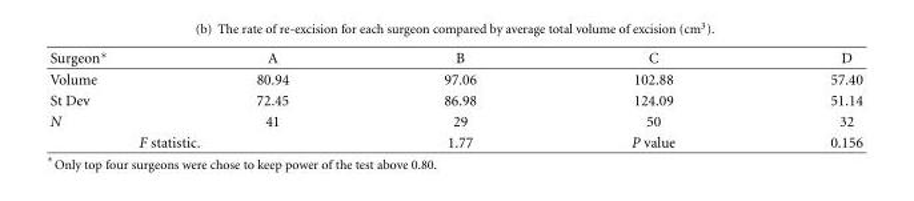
<table><thead><tr><td>Surgeon∗</td><td>A</td><td>B</td><td>C</td><td>D</td></tr></thead><tbody><tr><td>Volume</td><td>80.94</td><td>97.06</td><td>102.88</td><td>57.40</td></tr><tr><td>St Dev</td><td>72.45</td><td>86.98</td><td>124.09</td><td>51.14</td></tr><tr><td>N</td><td>41</td><td>29</td><td>50</td><td>32</td></tr><tr><td colspan="2">F statistic.</td><td>1.77</td><td>P value</td><td>0.156</td></tr></tbody></table>